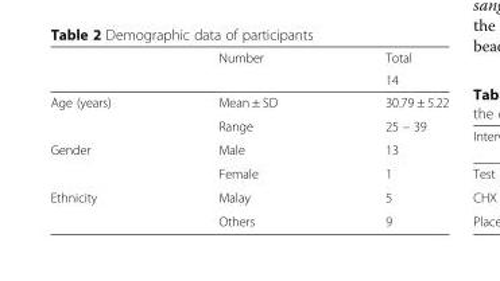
<table><thead><tr><td rowspan="2"></td><td rowspan="2">Number</td><td rowspan="2">Total 14</td></tr><tr></tr></thead><tbody><tr><td rowspan="2">Age (years)</td><td>Mean ± SD</td><td>30.79 ± 5.22</td></tr><tr><td>Range</td><td>25 – 39</td></tr><tr><td rowspan="2">Gender</td><td>Male</td><td>13</td></tr><tr><td>Female</td><td>1</td></tr><tr><td rowspan="2">Ethnicity</td><td>Malay</td><td>5</td></tr><tr><td>Others</td><td>9</td></tr></tbody></table>